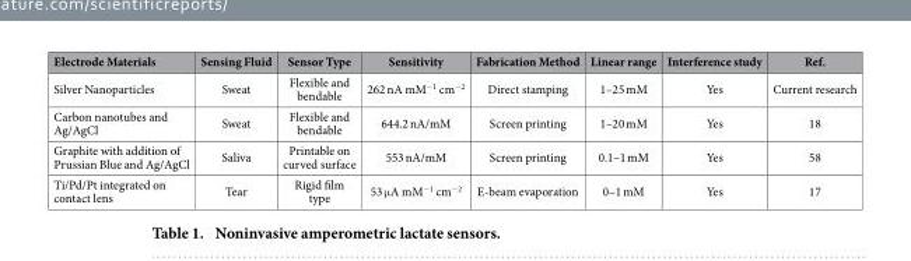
<table><thead><tr><td>Electrode Materials</td><td>Sensing Fluid</td><td>Sensor Type</td><td>Sensitivity</td><td>Fabrication Method</td><td>Linear range</td><td>Interference study</td><td>Ref.</td></tr></thead><tbody><tr><td>Silver Nanoparticles</td><td>Sweat</td><td>Flexible and bendable</td><td>262 nA mM<sup>−1</sup> cm<sup>−2</sup></td><td>Direct stamping</td><td>1–25 mM</td><td>Yes</td><td>Current research</td></tr><tr><td>Carbon nanotubes and Ag/AgCl</td><td>Sweat</td><td>Flexible and bendable</td><td>644.2 nA/mM</td><td>Screen printing</td><td>1–20 mM</td><td>Yes</td><td>18</td></tr><tr><td>Graphite with addition of Prussian Blue and Ag/AgCl</td><td>Saliva</td><td>Printable on curved surface</td><td>553 nA/mM</td><td>Screen printing</td><td>0.1–1 mM</td><td>Yes</td><td>58</td></tr><tr><td>Ti/Pd/Pt integrated on contact lens</td><td>Tear</td><td>Rigid film type</td><td>53 μ A mM<sup>−1</sup> cm<sup>−2</sup></td><td>E-beam evaporation</td><td>0–1 mM</td><td>Yes</td><td>17</td></tr></tbody></table>